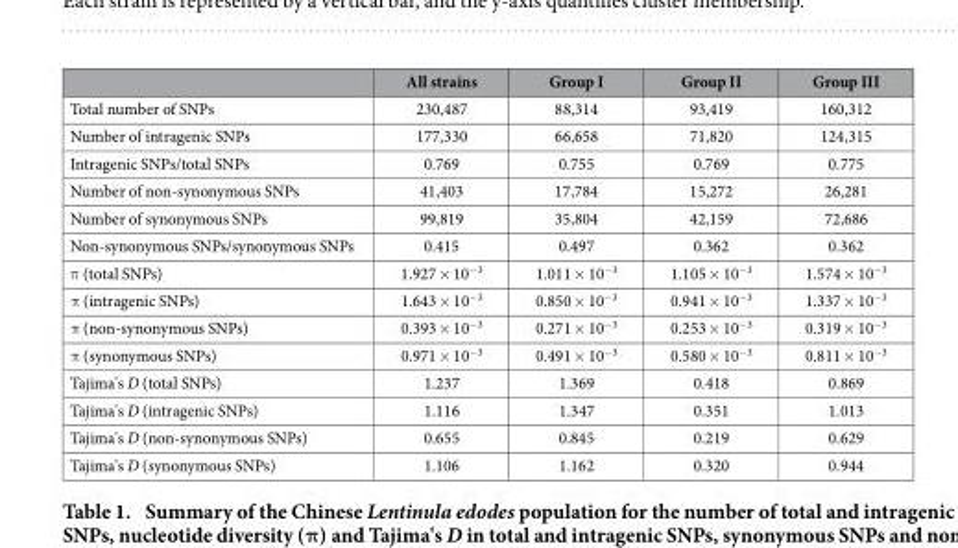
<table><thead><tr><td></td><td>All strains</td><td>Group I</td><td>Group II</td><td>Group III</td></tr></thead><tbody><tr><td>Total number of SNPs</td><td>230,487</td><td>88,314</td><td>93,419</td><td>160,312</td></tr><tr><td>Number of intragenic SNPs</td><td>177,330</td><td>66,658</td><td>71,820</td><td>124,315</td></tr><tr><td>Intragenic SNPs/total SNPs</td><td>0.769</td><td>0.755</td><td>0.769</td><td>0.775</td></tr><tr><td>Number of non-synonymous SNPs</td><td>41,403</td><td>17,784</td><td>15,272</td><td>26,281</td></tr><tr><td>Number of synonymous SNPs</td><td>99,819</td><td>35,804</td><td>42,159</td><td>72,686</td></tr><tr><td>Non-synonymous SNPs/synonymous SNPs</td><td>0.415</td><td>0.497</td><td>0.362</td><td>0.362</td></tr><tr><td>π (total SNPs)</td><td>1.927 × 10<sup>−3</sup></td><td>1.011 × 10<sup>−3</sup></td><td>1.105 × 10<sup>−3</sup></td><td>1.574 × 10<sup>−3</sup></td></tr><tr><td>π (intragenic SNPs)</td><td>1.643 × 10<sup>−3</sup></td><td>0.850 × 10<sup>−3</sup></td><td>0.941 × 10<sup>−3</sup></td><td>1.337 × 10<sup>−3</sup></td></tr><tr><td>π (non-synonymous SNPs)</td><td>0.393 × 10<sup>−3</sup></td><td>0.271 × 10<sup>−3</sup></td><td>0.253 × 10<sup>−3</sup></td><td>0.319 × 10<sup>−3</sup></td></tr><tr><td>π (synonymous SNPs)</td><td>0.971 × 10<sup>−3</sup></td><td>0.491 × 10<sup>−3</sup></td><td>0.580 × 10<sup>−3</sup></td><td>0.811 × 10<sup>−3</sup></td></tr><tr><td>Tajima&#x27;s D (total SNPs)</td><td>1.237</td><td>1.369</td><td>0.418</td><td>0.869</td></tr><tr><td>Tajima&#x27;s D (intragenic SNPs)</td><td>1.116</td><td>1.347</td><td>0.351</td><td>1.013</td></tr><tr><td>Tajima&#x27;s D (non-synonymous SNPs)</td><td>0.655</td><td>0.845</td><td>0.219</td><td>0.629</td></tr><tr><td>Tajima&#x27;s D (synonymous SNPs)</td><td>1.106</td><td>1.162</td><td>0.320</td><td>0.944</td></tr></tbody></table>